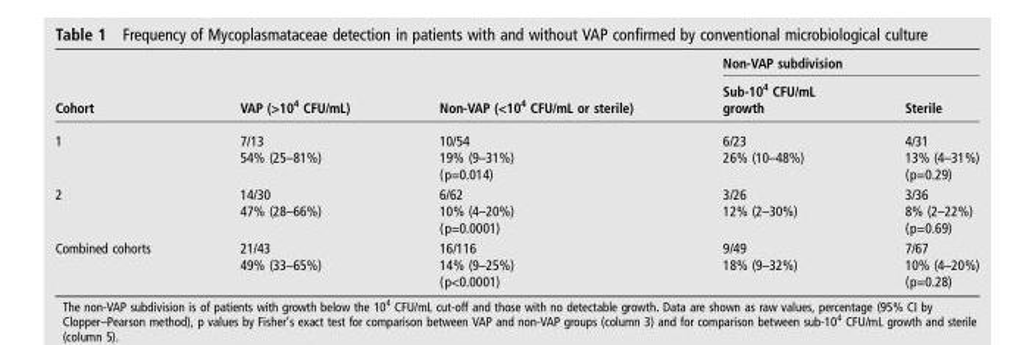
<table><thead><tr><td rowspan="2">Cohort</td><td rowspan="2">VAP (&gt;10<sup>4</sup> CFU/mL)</td><td rowspan="2">Non-VAP (&lt;10<sup>4</sup> CFU/mL or sterile)</td><td colspan="2">Non-VAP subdivision</td></tr><tr><td>Sub-10<sup>4</sup> CFU/mL growth</td><td>Sterile</td></tr></thead><tbody><tr><td>1</td><td>7/13 54% (25–81%)</td><td>10/54 19% (9–31%) (p=0.014)</td><td>6/23 26% (10–48%)</td><td>4/31 13% (4–31%) (p=0.29)</td></tr><tr><td>2</td><td>14/30 47% (28–66%)</td><td>6/62 10% (4–20%) (p=0.0001)</td><td>3/26 12% (2–30%)</td><td>3/36 8% (2–22%) (p=0.69)</td></tr><tr><td>Combined cohorts</td><td>21/43 49% (33–65%)</td><td>16/116 14% (9–25%) (p&lt;0.0001)</td><td>9/49 18% (9–32%)</td><td>7/67 10% (4–20%) (p=0.28)</td></tr></tbody></table>